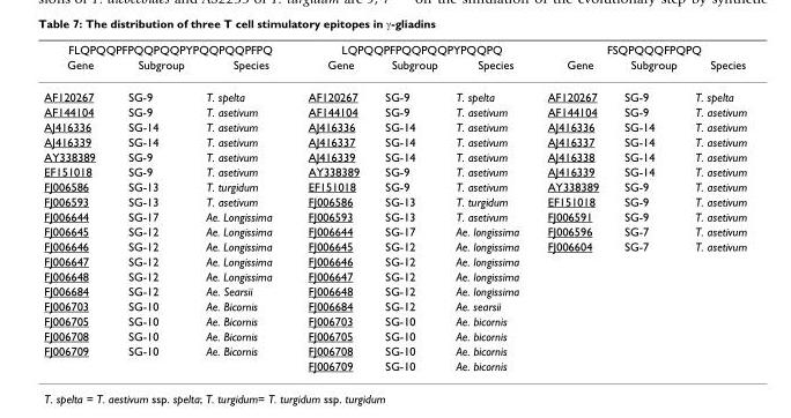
<table><thead><tr><td colspan="3">FLQPQQPFPQQPQQPYPQQPQQPFPQ</td><td colspan="3">LQPQQPFPQQPQQPYPQQPQ</td><td colspan="3">FSQPQQQFPQPQ</td></tr><tr><td>Gene</td><td>Subgroup</td><td>Species</td><td>Gene</td><td>Subgroup</td><td>Species</td><td>Gene</td><td>Subgroup</td><td>Species</td></tr></thead><tbody><tr><td>AF120267</td><td>SG-9</td><td>T. spelta</td><td>AF120267</td><td>SG-9</td><td>T. spelta</td><td>AF120267</td><td>SG-9</td><td>T. spelta</td></tr><tr><td>AF144104</td><td>SG-9</td><td>T. asetivum</td><td>AF144104</td><td>SG-9</td><td>T. asetivum</td><td>AF144104</td><td>SG-9</td><td>T. asetivum</td></tr><tr><td>AJ416336</td><td>SG-14</td><td>T. asetivum</td><td>AJ416336</td><td>SG-14</td><td>T. asetivum</td><td>AJ416336</td><td>SG-14</td><td>T. asetivum</td></tr><tr><td>AJ416339</td><td>SG-14</td><td>T. asetivum</td><td>AJ416337</td><td>SG-14</td><td>T. asetivum</td><td>AJ416337</td><td>SG-14</td><td>T. asetivum</td></tr><tr><td>AY338389</td><td>SG-9</td><td>T. asetivum</td><td>AJ416339</td><td>SG-14</td><td>T. asetivum</td><td>AJ416338</td><td>SG-14</td><td>T. asetivum</td></tr><tr><td>EF151018</td><td>SG-9</td><td>T. asetivum</td><td>AY338389</td><td>SG-9</td><td>T. asetivum</td><td>AJ416339</td><td>SG-14</td><td>T. asetivum</td></tr><tr><td>FJ006586</td><td>SG-13</td><td>T. turgidum</td><td>EF151018</td><td>SG-9</td><td>T. asetivum</td><td>AY338389</td><td>SG-9</td><td>T. asetivum</td></tr><tr><td>FJ006593</td><td>SG-13</td><td>T. asetivum</td><td>FJ006586</td><td>SG-13</td><td>T. turgidum</td><td>EF151018</td><td>SG-9</td><td>T. asetivum</td></tr><tr><td>FJ006644</td><td>SG-17</td><td>Ae. Longissima</td><td>FJ006593</td><td>SG-13</td><td>T. asetivum</td><td>FJ006591</td><td>SG-9</td><td>T. asetivum</td></tr><tr><td>FJ006645</td><td>SG-12</td><td>Ae. Longissima</td><td>FJ006644</td><td>SG-17</td><td>Ae. longissima</td><td>FJ006596</td><td>SG-7</td><td>T. asetivum</td></tr><tr><td>FJ006646</td><td>SG-12</td><td>Ae. Longissima</td><td>FJ006645</td><td>SG-12</td><td>Ae. longissima</td><td>FJ006604</td><td>SG-7</td><td>T. asetivum</td></tr><tr><td>FJ006647</td><td>SG-12</td><td>Ae. Longissima</td><td>FJ006646</td><td>SG-12</td><td>Ae. longissima</td><td></td><td></td><td></td></tr><tr><td>FJ006648</td><td>SG-12</td><td>Ae. Longissima</td><td>FJ006647</td><td>SG-12</td><td>Ae. longissima</td><td></td><td></td><td></td></tr><tr><td>FJ006684</td><td>SG-12</td><td>Ae. Searsii</td><td>FJ006648</td><td>SG-12</td><td>Ae. longissima</td><td></td><td></td><td></td></tr><tr><td>FJ006703</td><td>SG-10</td><td>Ae. Bicornis</td><td>FJ006684</td><td>SG-12</td><td>Ae. searsii</td><td></td><td></td><td></td></tr><tr><td>FJ006705</td><td>SG-10</td><td>Ae. Bicornis</td><td>FJ006703</td><td>SG-10</td><td>Ae. bicornis</td><td></td><td></td><td></td></tr><tr><td>FJ006708</td><td>SG-10</td><td>Ae. Bicornis</td><td>FJ006705</td><td>SG-10</td><td>Ae. bicornis</td><td></td><td></td><td></td></tr><tr><td rowspan="2">FJ006709</td><td>SG-10</td><td>Ae. Bicornis</td><td>FJ006708</td><td>SG-10</td><td>Ae. bicornis</td><td></td><td></td><td></td></tr><tr><td></td><td></td><td>FJ006709</td><td>SG-10</td><td>Ae. bicornis</td><td></td><td></td><td></td></tr></tbody></table>